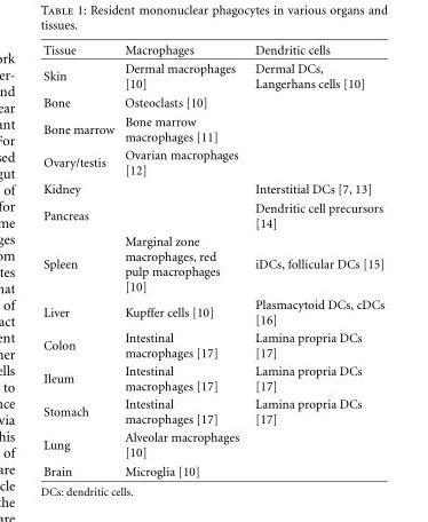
<table><thead><tr><td>Tissue</td><td>Macrophages</td><td>Dendritic cells</td></tr></thead><tbody><tr><td>Skin</td><td>Dermal macrophages [10]</td><td>Dermal DCs, Langerhans cells [10]</td></tr><tr><td>Bone</td><td>Osteoclasts [10]</td><td></td></tr><tr><td>Bone marrow</td><td>Bone marrow macrophages [11]</td><td></td></tr><tr><td>Ovary/testis</td><td>Ovarian macrophages [12]</td><td></td></tr><tr><td>Kidney</td><td></td><td>Interstitial DCs [7, 13]</td></tr><tr><td>Pancreas</td><td></td><td>Dendritic cell precursors [14]</td></tr><tr><td>Spleen</td><td>Marginal zone macrophages, red pulp macrophages [10]</td><td>iDCs, follicular DCs [15]</td></tr><tr><td>Liver</td><td>Kupffer cells [10]</td><td>Plasmacytoid DCs, cDCs [16]</td></tr><tr><td>Colon</td><td>Intestinal macrophages [17]</td><td>Lamina propria DCs [17]</td></tr><tr><td>Ileum</td><td>Intestinal macrophages [17]</td><td>Lamina propria DCs [17]</td></tr><tr><td>Stomach</td><td>Intestinal macrophages [17]</td><td>Lamina propria DCs [17]</td></tr><tr><td>Lung</td><td>Alveolar macrophages [10]</td><td></td></tr><tr><td>Brain</td><td>Microglia [10]</td><td></td></tr></tbody></table>